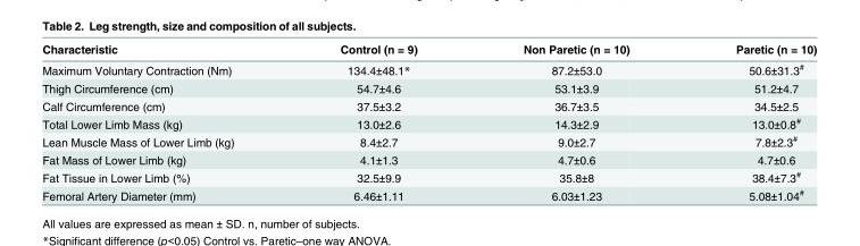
<table><thead><tr><td>Characteristic</td><td>Control (n = 9)</td><td>Non Paretic (n = 10)</td><td>Paretic (n = 10)</td></tr></thead><tbody><tr><td>Maximum Voluntary Contraction (Nm)</td><td>134.4±48.1*</td><td>87.2±53.0</td><td>50.6±31.3<sup>#</sup></td></tr><tr><td>Thigh Circumference (cm)</td><td>54.7±4.6</td><td>53.1±3.9</td><td>51.2±4.7</td></tr><tr><td>Calf Circumference (cm)</td><td>37.5±3.2</td><td>36.7±3.5</td><td>34.5±2.5</td></tr><tr><td>Total Lower Limb Mass (kg)</td><td>13.0±2.6</td><td>14.3±2.9</td><td>13.0±0.8<sup>#</sup></td></tr><tr><td>Lean Muscle Mass of Lower Limb (kg)</td><td>8.4±2.7</td><td>9.0±2.7</td><td>7.8±2.3<sup>#</sup></td></tr><tr><td>Fat Mass of Lower Limb (kg)</td><td>4.1±1.3</td><td>4.7±0.6</td><td>4.7±0.6</td></tr><tr><td>Fat Tissue in Lower Limb (%)</td><td>32.5±9.9</td><td>35.8±8</td><td>38.4±7.3<sup>#</sup></td></tr><tr><td>Femoral Artery Diameter (mm)</td><td>6.46±1.11</td><td>6.03±1.23</td><td>5.08±1.04<sup>#</sup></td></tr></tbody></table>